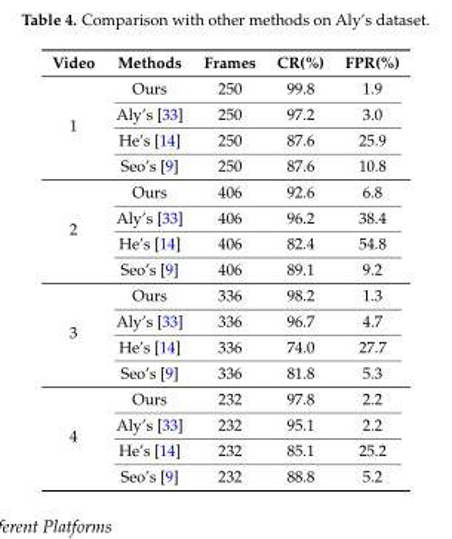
<table><thead><tr><td>Video</td><td>Methods</td><td>Frames</td><td>CR(%)</td><td>FPR(%)</td></tr></thead><tbody><tr><td rowspan="4">1</td><td>Ours</td><td>250</td><td>99.8</td><td>1.9</td></tr><tr><td>Aly’s [33]</td><td>250</td><td>97.2</td><td>3.0</td></tr><tr><td>He’s [14]</td><td>250</td><td>87.6</td><td>25.9</td></tr><tr><td>Seo’s [9]</td><td>250</td><td>87.6</td><td>10.8</td></tr><tr><td rowspan="4">2</td><td>Ours</td><td>406</td><td>92.6</td><td>6.8</td></tr><tr><td>Aly’s [33]</td><td>406</td><td>96.2</td><td>38.4</td></tr><tr><td>He’s [14]</td><td>406</td><td>82.4</td><td>54.8</td></tr><tr><td>Seo’s [9]</td><td>406</td><td>89.1</td><td>9.2</td></tr><tr><td rowspan="4">3</td><td>Ours</td><td>336</td><td>98.2</td><td>1.3</td></tr><tr><td>Aly’s [33]</td><td>336</td><td>96.7</td><td>4.7</td></tr><tr><td>He’s [14]</td><td>336</td><td>74.0</td><td>27.7</td></tr><tr><td>Seo’s [9]</td><td>336</td><td>81.8</td><td>5.3</td></tr><tr><td rowspan="4">4</td><td>Ours</td><td>232</td><td>97.8</td><td>2.2</td></tr><tr><td>Aly’s [33]</td><td>232</td><td>95.1</td><td>2.2</td></tr><tr><td>He’s [14]</td><td>232</td><td>85.1</td><td>25.2</td></tr><tr><td>Seo’s [9]</td><td>232</td><td>88.8</td><td>5.2</td></tr></tbody></table>